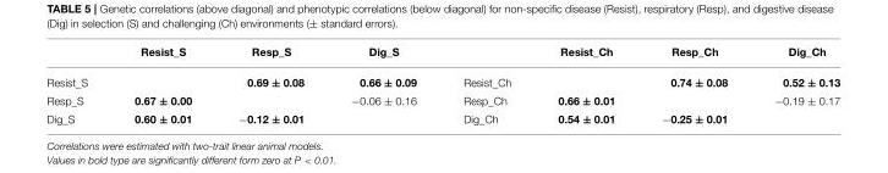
<table><thead><tr><td></td><td>Resist_S</td><td>Resp_S</td><td>Dig_S</td><td></td><td>Resist_Ch</td><td>Resp_Ch</td><td>Dig_Ch</td></tr></thead><tbody><tr><td>Resist_S</td><td></td><td>0.69 ± 0.08</td><td>0.66 ± 0.09</td><td>Resist_Ch</td><td></td><td>0.74 ± 0.08</td><td>0.52 ± 0.13</td></tr><tr><td>Resp_S</td><td>0.67 ± 0.00</td><td></td><td>−0.06 ± 0.16</td><td>Resp_Ch</td><td>0.66 ± 0.01</td><td></td><td>−0.19 ± 0.17</td></tr><tr><td>Dig_S</td><td>0.60 ± 0.01</td><td>−0.12 ± 0.01</td><td></td><td>Dig_Ch</td><td>0.54 ± 0.01</td><td>−0.25 ± 0.01</td><td></td></tr></tbody></table>